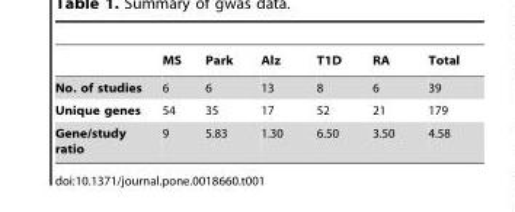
<table><thead><tr><td></td><td>MS</td><td>Park</td><td>Alz</td><td>T1D</td><td>RA</td><td>Total</td></tr></thead><tbody><tr><td>No. of studies</td><td>6</td><td>6</td><td>13</td><td>8</td><td>6</td><td>39</td></tr><tr><td>Unique genes</td><td>54</td><td>35</td><td>17</td><td>52</td><td>21</td><td>179</td></tr><tr><td>Gene/study ratio</td><td>9</td><td>5.83</td><td>1.30</td><td>6.50</td><td>3.50</td><td>4.58</td></tr></tbody></table>